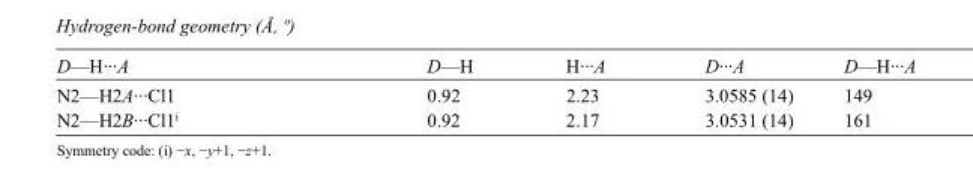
<table><tbody><tr><td>D—H···A</td><td>D—H</td><td>H···A</td><td>D···A</td><td>D—H···A</td></tr><tr><td>N2—H2A···Cl1</td><td>0.92</td><td>2.23</td><td>3.0585 (14)</td><td>149</td></tr><tr><td>N2—H2B···Cl1<sup>i</sup></td><td>0.92</td><td>2.17</td><td>3.0531 (14)</td><td>161</td></tr></tbody></table>